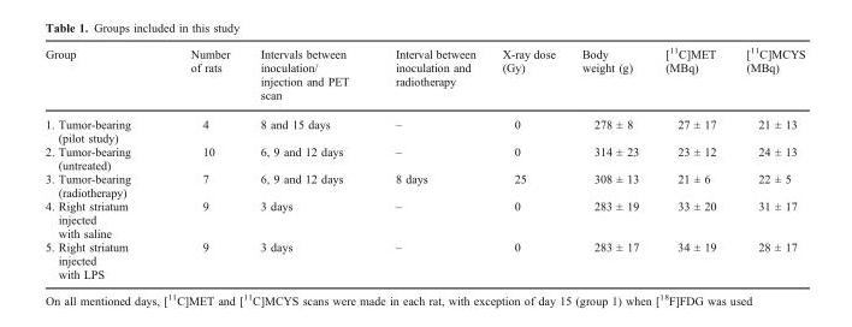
<table><thead><tr><td>Group</td><td>Number of rats</td><td>Intervals between inoculation/ injection and PET scan</td><td>Interval between inoculation and radiotherapy</td><td>X-ray dose (Gy)</td><td>Body weight (g)</td><td>[<sup>11</sup>C]MET (MBq)</td><td>[<sup>11</sup>C]MCYS (MBq)</td></tr></thead><tbody><tr><td>1. Tumor-bearing (pilot study)</td><td>4</td><td>8 and 15 days</td><td>–</td><td>0</td><td>278 ± 8</td><td>27 ± 17</td><td>21 ± 13</td></tr><tr><td>2. Tumor-bearing (untreated)</td><td>10</td><td>6, 9 and 12 days</td><td>–</td><td>0</td><td>314 ± 23</td><td>23 ± 12</td><td>24 ± 13</td></tr><tr><td>3. Tumor-bearing (radiotherapy)</td><td>7</td><td>6, 9 and 12 days</td><td>8 days</td><td>25</td><td>308 ± 13</td><td>21 ± 6</td><td>22 ± 5</td></tr><tr><td>4. Right striatum injected with saline</td><td>9</td><td>3 days</td><td>–</td><td>0</td><td>283 ± 19</td><td>33 ± 20</td><td>31 ± 17</td></tr><tr><td>5. Right striatum injected with LPS</td><td>9</td><td>3 days</td><td>–</td><td>0</td><td>283 ± 17</td><td>34 ± 19</td><td>28 ± 17</td></tr></tbody></table>